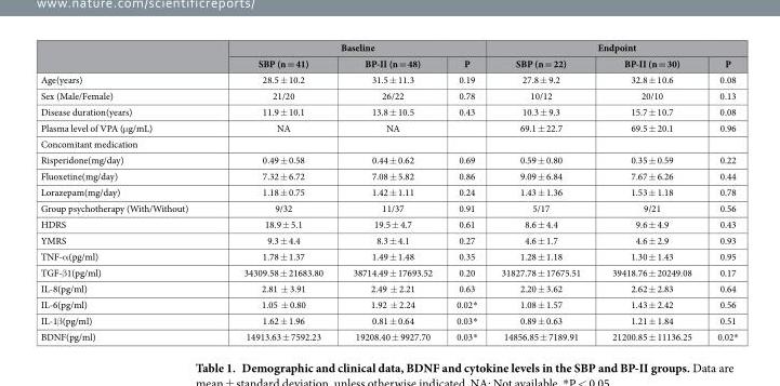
<table><thead><tr><td rowspan="2"></td><td colspan="3">Baseline</td><td colspan="3">Endpoint</td></tr><tr><td>SBP (n = 41)</td><td>BP-II (n = 48)</td><td>P</td><td>SBP (n = 22)</td><td>BP-II (n = 30)</td><td>P</td></tr></thead><tbody><tr><td>Age(years)</td><td>28.5 ± 10.2</td><td>31.5 ± 11.3</td><td>0.19</td><td>27.8 ± 9.2</td><td>32.8 ± 10.6</td><td>0.08</td></tr><tr><td>Sex (Male/Female)</td><td>21/20</td><td>26/22</td><td>0.78</td><td>10/12</td><td>20/10</td><td>0.13</td></tr><tr><td>Disease duration(years)</td><td>11.9 ± 10.1</td><td>13.8 ± 10.5</td><td>0.43</td><td>10.3 ± 9.3</td><td>15.7 ± 10.7</td><td>0.08</td></tr><tr><td>Plasma level of VPA (μ g/mL)</td><td>NA</td><td>NA</td><td></td><td>69.1 ± 22.7</td><td>69.5 ± 20.1</td><td>0.96</td></tr><tr><td colspan="7">Concomitant medication</td></tr><tr><td>Risperidone(mg/day)</td><td>0.49 ± 0.58</td><td>0.44 ± 0.62</td><td>0.69</td><td>0.59 ± 0.80</td><td>0.35 ± 0.59</td><td>0.22</td></tr><tr><td>Fluoxetine(mg/day)</td><td>7.32 ± 6.72</td><td>7.08 ± 5.82</td><td>0.86</td><td>9.09 ± 6.84</td><td>7.67 ± 6.26</td><td>0.44</td></tr><tr><td>Lorazepam(mg/day)</td><td>1.18 ± 0.75</td><td>1.42 ± 1.11</td><td>0.24</td><td>1.43 ± 1.36</td><td>1.53 ± 1.18</td><td>0.78</td></tr><tr><td>Group psychotherapy (With/Without)</td><td>9/32</td><td>11/37</td><td>0.91</td><td>5/17</td><td>9/21</td><td>0.56</td></tr><tr><td>HDRS</td><td>18.9 ± 5.1</td><td>19.5 ± 4.7</td><td>0.61</td><td>8.6 ± 4.4</td><td>9.6 ± 4.9</td><td>0.43</td></tr><tr><td>YMRS</td><td>9.3 ± 4.4</td><td>8.3 ± 4.1</td><td>0.27</td><td>4.6 ± 1.7</td><td>4.6 ± 2.9</td><td>0.93</td></tr><tr><td>TNF-α (pg/ml)</td><td>1.78 ± 1.37</td><td>1.49 ± 1.48</td><td>0.35</td><td>1.28 ± 1.18</td><td>1.30 ± 1.43</td><td>0.95</td></tr><tr><td>TGF-β 1(pg/ml)</td><td>34309.58 ± 21683.80</td><td>38714.49 ± 17693.52</td><td>0.20</td><td>31827.78 ± 17675.51</td><td>39418.76 ± 20249.08</td><td>0.17</td></tr><tr><td>IL-8(pg/ml)</td><td>2.81 ± 3.91</td><td>2.49 ± 2.21</td><td>0.63</td><td>2.20 ± 3.62</td><td>2.62 ± 2.83</td><td>0.64</td></tr><tr><td>IL-6(pg/ml)</td><td>1.05 ± 0.80</td><td>1.92 ± 2.24</td><td>0.02*</td><td>1.08 ± 1.57</td><td>1.43 ± 2.42</td><td>0.56</td></tr><tr><td>IL-1β (pg/ml)</td><td>1.62 ± 1.96</td><td>0.81 ± 0.64</td><td>0.03*</td><td>0.89 ± 0.63</td><td>1.21 ± 1.84</td><td>0.51</td></tr><tr><td>BDNF(pg/ml)</td><td>14913.63 ± 7592.23</td><td>19208.40 ± 9927.70</td><td>0.03*</td><td>14856.85 ± 7189.91</td><td>21200.85 ± 11136.25</td><td>0.02*</td></tr></tbody></table>